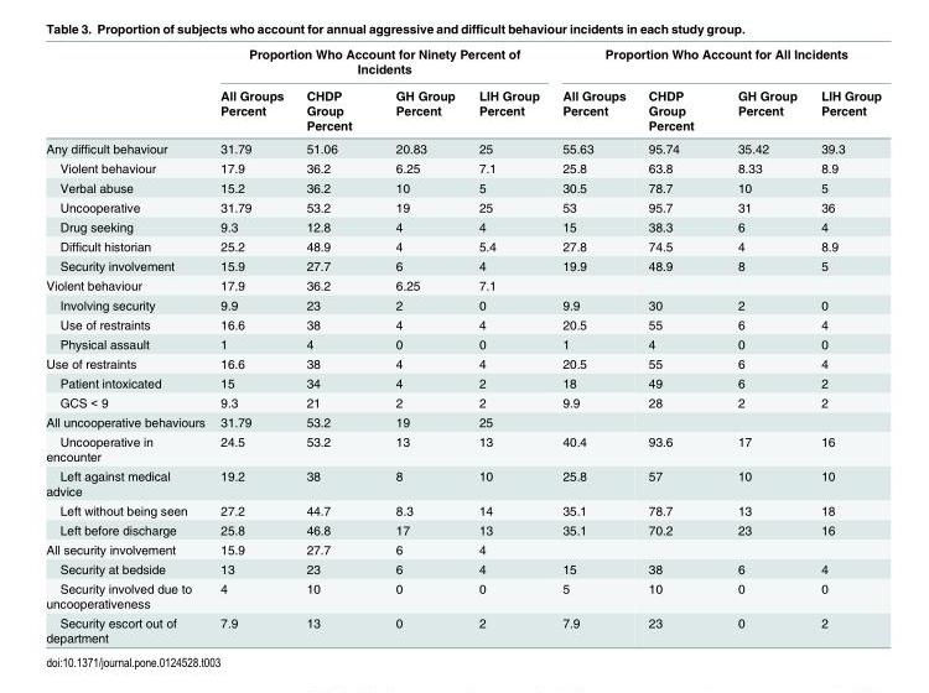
<table><thead><tr><td rowspan="2"></td><td colspan="4">Proportion Who Account for Ninety Percent of Incidents</td><td colspan="4">Proportion Who Account for All Incidents</td></tr><tr><td>All Groups Percent</td><td>CHDP Group Percent</td><td>GH Group Percent</td><td>LIH Group Percent</td><td>All Groups Percent</td><td>CHDP Group Percent</td><td>GH Group Percent</td><td>LIH Group Percent</td></tr></thead><tbody><tr><td>Any difficult behaviour</td><td>31.79</td><td>51.06</td><td>20.83</td><td>25</td><td>55.63</td><td>95.74</td><td>35.42</td><td>39.3</td></tr><tr><td>Violent behaviour</td><td>17.9</td><td>36.2</td><td>6.25</td><td>7.1</td><td>25.8</td><td>63.8</td><td>8.33</td><td>8.9</td></tr><tr><td>Verbal abuse</td><td>15.2</td><td>36.2</td><td>10</td><td>5</td><td>30.5</td><td>78.7</td><td>10</td><td>5</td></tr><tr><td>Uncooperative</td><td>31.79</td><td>53.2</td><td>19</td><td>25</td><td>53</td><td>95.7</td><td>31</td><td>36</td></tr><tr><td>Drug seeking</td><td>9.3</td><td>12.8</td><td>4</td><td>4</td><td>15</td><td>38.3</td><td>6</td><td>4</td></tr><tr><td>Difficult historian</td><td>25.2</td><td>48.9</td><td>4</td><td>5.4</td><td>27.8</td><td>74.5</td><td>4</td><td>8.9</td></tr><tr><td>Security involvement</td><td>15.9</td><td>27.7</td><td>6</td><td>4</td><td>19.9</td><td>48.9</td><td>8</td><td>5</td></tr><tr><td>Violent behaviour</td><td>17.9</td><td>36.2</td><td>6.25</td><td>7.1</td><td></td><td></td><td></td><td></td></tr><tr><td>Involving security</td><td>9.9</td><td>23</td><td>2</td><td>0</td><td>9.9</td><td>30</td><td>2</td><td>0</td></tr><tr><td>Use of restraints</td><td>16.6</td><td>38</td><td>4</td><td>4</td><td>20.5</td><td>55</td><td>6</td><td>4</td></tr><tr><td>Physical assault</td><td>1</td><td>4</td><td>0</td><td>0</td><td>1</td><td>4</td><td>0</td><td>0</td></tr><tr><td>Use of restraints</td><td>16.6</td><td>38</td><td>4</td><td>4</td><td>20.5</td><td>55</td><td>6</td><td>4</td></tr><tr><td>Patient intoxicated</td><td>15</td><td>34</td><td>4</td><td>2</td><td>18</td><td>49</td><td>6</td><td>2</td></tr><tr><td>GCS &lt; 9</td><td>9.3</td><td>21</td><td>2</td><td>2</td><td>9.9</td><td>28</td><td>2</td><td>2</td></tr><tr><td>All uncooperative behaviours</td><td>31.79</td><td>53.2</td><td>19</td><td>25</td><td></td><td></td><td></td><td></td></tr><tr><td>Uncooperative in encounter</td><td>24.5</td><td>53.2</td><td>13</td><td>13</td><td>40.4</td><td>93.6</td><td>17</td><td>16</td></tr><tr><td>Left against medical advice</td><td>19.2</td><td>38</td><td>8</td><td>10</td><td>25.8</td><td>57</td><td>10</td><td>10</td></tr><tr><td>Left without being seen</td><td>27.2</td><td>44.7</td><td>8.3</td><td>14</td><td>35.1</td><td>78.7</td><td>13</td><td>18</td></tr><tr><td>Left before discharge</td><td>25.8</td><td>46.8</td><td>17</td><td>13</td><td>35.1</td><td>70.2</td><td>23</td><td>16</td></tr><tr><td>All security involvement</td><td>15.9</td><td>27.7</td><td>6</td><td>4</td><td></td><td></td><td></td><td></td></tr><tr><td>Security at bedside</td><td>13</td><td>23</td><td>6</td><td>4</td><td>15</td><td>38</td><td>6</td><td>4</td></tr><tr><td>Security involved due to uncooperativeness</td><td>4</td><td>10</td><td>0</td><td>0</td><td>5</td><td>10</td><td>0</td><td>0</td></tr><tr><td>Security escort out of department</td><td>7.9</td><td>13</td><td>0</td><td>2</td><td>7.9</td><td>23</td><td>0</td><td>2</td></tr></tbody></table>